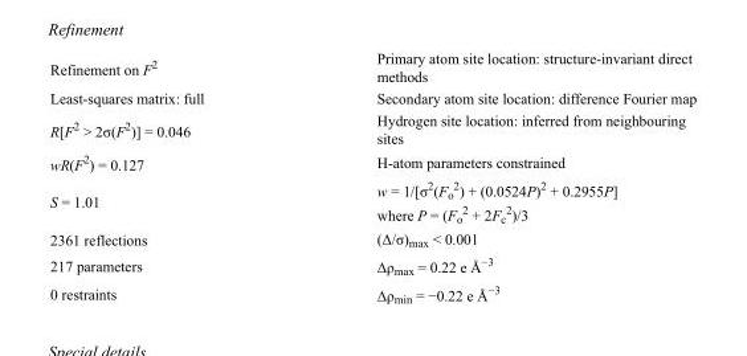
<table><tbody><tr><td>Refinement on F<sup>2</sup></td><td>Primary atom site location: structure-invariant direct methods</td></tr><tr><td>Least-squares matrix: full</td><td>Secondary atom site location: difference Fourier map</td></tr><tr><td>R[F<sup>2</sup> &gt; 2σ(F<sup>2</sup>)] = 0.046</td><td>Hydrogen site location: inferred from neighbouring sites</td></tr><tr><td>wR(F<sup>2</sup>) = 0.127</td><td>H-atom parameters constrained</td></tr><tr><td>S = 1.01</td><td>w = 1/[σ<sup>2</sup>(F<sub>o</sub> <sup>2</sup>) + (0.0524P)<sup>2</sup> + 0.2955P] where P = (F<sub>o</sub> <sup>2</sup> + 2F<sub>c</sub> <sup>2</sup>)/3</td></tr><tr><td>2361 reflections</td><td>(Δ/σ)<sub>max</sub> &lt; 0.001</td></tr><tr><td>217 parameters</td><td>Δρ<sub>max</sub> = 0.22 e Å<sup>−3</sup></td></tr><tr><td>0 restraints</td><td>Δρ<sub>min</sub> = −0.22 e Å<sup>−3</sup></td></tr></tbody></table>